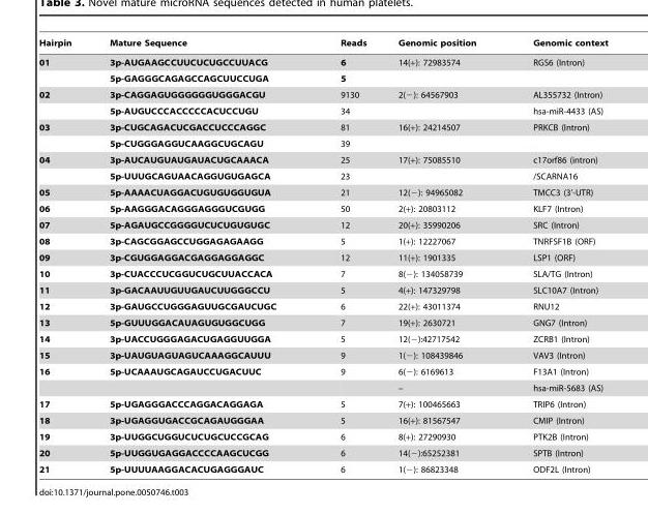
<table><thead><tr><td>Hairpin</td><td>Mature Sequence</td><td>Reads</td><td>Genomic position</td><td>Genomic context</td></tr></thead><tbody><tr><td rowspan="2">01</td><td>3p-AUGAAGCCUUCUCUGCCUUACG</td><td>6</td><td>14(+): 72983574</td><td>RGS6 (Intron)</td></tr><tr><td>5p-GAGGGCAGAGCCAGCUUCCUGA</td><td>5</td><td></td><td></td></tr><tr><td rowspan="2">02</td><td>3p-CAGGAGUGGGGGGUGGGACGU</td><td>9130</td><td>2(−): 64567903</td><td>AL355732 (Intron)</td></tr><tr><td>5p-AUGUCCCACCCCCACUCCUGU</td><td>34</td><td></td><td>hsa-miR-4433 (AS)</td></tr><tr><td rowspan="2">03</td><td>3p-CUGCAGACUCGACCUCCCAGGC</td><td>81</td><td>16(+): 24214507</td><td>PRKCB (Intron)</td></tr><tr><td>5p-CUGGGAGGUCAAGGCUGCAGU</td><td>39</td><td></td><td></td></tr><tr><td rowspan="2">04</td><td>3p-AUCAUGUAUGAUACUGCAAACA</td><td>25</td><td>17(+): 75085510</td><td>c17orf86 (intron)</td></tr><tr><td>5p-UUUGCAGUAACAGGUGUGAGCA</td><td>23</td><td></td><td>/SCARNA16</td></tr><tr><td>05</td><td>5p-AAAACUAGGACUGUGUGGUGUA</td><td>21</td><td>12(−): 94965082</td><td>TMCC3 (3’-UTR)</td></tr><tr><td>06</td><td>5p-AAGGGACAGGGAGGGUCGUGG</td><td>50</td><td>2(+): 20803112</td><td>KLF7 (Intron)</td></tr><tr><td>07</td><td>5p-AGAUGCCGGGGUCUCUGUGUGC</td><td>12</td><td>20(+): 35990206</td><td>SRC (Intron)</td></tr><tr><td>08</td><td>3p-CAGCGGAGCCUGGAGAGAAGG</td><td>5</td><td>1(+): 12227067</td><td>TNRFSF1B (ORF)</td></tr><tr><td>09</td><td>3p-CGUGGAGGACGAGGAGGAGGC</td><td>12</td><td>11(+): 1901335</td><td>LSP1 (ORF)</td></tr><tr><td>10</td><td>3p-CUACCCUCGGUCUGCUUACCACA</td><td>7</td><td>8(−): 134058739</td><td>SLA/TG (Intron)</td></tr><tr><td>11</td><td>3p-GACAAUUGUUGAUCUUGGGCCU</td><td>5</td><td>4(+): 147329798</td><td>SLC10A7 (Intron)</td></tr><tr><td>12</td><td>3p-GAUGCCUGGGAGUUGCGAUCUGC</td><td>6</td><td>22(+): 43011374</td><td>RNU12</td></tr><tr><td>13</td><td>5p-GUUUGGACAUAGUGUGGCUGG</td><td>7</td><td>19(+): 2630721</td><td>GNG7 (Intron)</td></tr><tr><td>14</td><td>3p-UACCUGGGAGACUGAGGUUGGA</td><td>5</td><td>12(−):42717542</td><td>ZCRB1 (Intron)</td></tr><tr><td>15</td><td>3p-UAUGUAGUAGUCAAAGGCAUUU</td><td>9</td><td>1(−): 108439846</td><td>VAV3 (Intron)</td></tr><tr><td rowspan="2">16</td><td>5p-UCAAAUGCAGAUCCUGACUUC</td><td>9</td><td>6(−): 6169613</td><td>F13A1 (Intron)</td></tr><tr><td></td><td></td><td>–</td><td>hsa-miR-5683 (AS)</td></tr><tr><td>17</td><td>5p-UGAGGGACCCAGGACAGGAGA</td><td>5</td><td>7(+): 100465663</td><td>TRIP6 (Intron)</td></tr><tr><td>18</td><td>3p-UGAGGUGACCGCAGAUGGGAA</td><td>5</td><td>16(+): 81567547</td><td>CMIP (Intron)</td></tr><tr><td>19</td><td>3p-UUGGCUGGUCUCUGCUCCGCAG</td><td>6</td><td>8(+): 27290930</td><td>PTK2B (Intron)</td></tr><tr><td>20</td><td>5p-UUGGUGAGGACCCCAAGCUCGG</td><td>6</td><td>14(−):65252381</td><td>SPTB (Intron)</td></tr><tr><td>21</td><td>5p-UUUUAAGGACACUGAGGGAUC</td><td>6</td><td>1(−): 86823348</td><td>ODF2L (Intron)</td></tr></tbody></table>